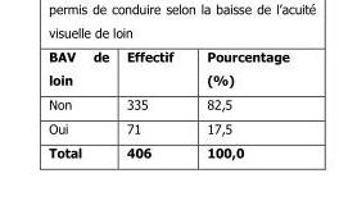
<table><thead><tr><td>BAV de loin</td><td>Effectif</td><td>Pourcentage (%)</td></tr></thead><tbody><tr><td>Non</td><td>335</td><td>82,5</td></tr><tr><td>Oui</td><td>71</td><td>17,5</td></tr><tr><td>Total</td><td>406</td><td>100,0</td></tr></tbody></table>